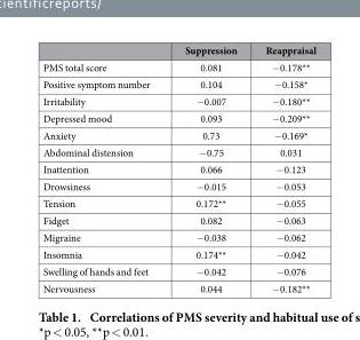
<table><thead><tr><td></td><td>Suppression</td><td>Reappraisal</td></tr></thead><tbody><tr><td>PMS total score</td><td>0.081</td><td>− 0.178**</td></tr><tr><td>Positive symptom number</td><td>0.104</td><td>− 0.158*</td></tr><tr><td>Irritability</td><td>− 0.007</td><td>− 0.180**</td></tr><tr><td>Depressed mood</td><td>0.093</td><td>− 0.209**</td></tr><tr><td>Anxiety</td><td>0.73</td><td>− 0.169*</td></tr><tr><td>Abdominal distension</td><td>− 0.75</td><td>0.031</td></tr><tr><td>Inattention</td><td>0.066</td><td>− 0.123</td></tr><tr><td>Drowsiness</td><td>− 0.015</td><td>− 0.053</td></tr><tr><td>Tension</td><td>0.172**</td><td>− 0.055</td></tr><tr><td>Fidget</td><td>0.082</td><td>− 0.063</td></tr><tr><td>Migraine</td><td>− 0.038</td><td>− 0.062</td></tr><tr><td>Insomnia</td><td>0.174**</td><td>− 0.042</td></tr><tr><td>Swelling of hands and feet</td><td>− 0.042</td><td>− 0.076</td></tr><tr><td>Nervousness</td><td>0.044</td><td>− 0.182**</td></tr></tbody></table>